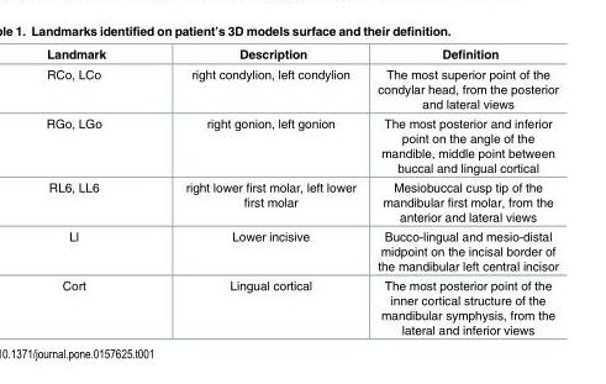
<table><thead><tr><td>Landmark</td><td>Description</td><td>Definition</td></tr></thead><tbody><tr><td>RCo, LCo</td><td>right condylion, left condylion</td><td>The most superior point of the condylar head, from the posterior and lateral views</td></tr><tr><td>RGo, LGo</td><td>right gonion, left gonion</td><td>The most posterior and inferior point on the angle of the mandible, middle point between buccal and lingual cortical</td></tr><tr><td>RL6, LL6</td><td>right lower first molar, left lower first molar</td><td>Mesiobuccal cusp tip of the mandibular first molar, from the anterior and lateral views</td></tr><tr><td>Ll</td><td>Lower incisive</td><td>Bucco-lingual and mesio-distal midpoint on the incisal border of the mandibular left central incisor</td></tr><tr><td>Cort</td><td>Lingual cortical</td><td>The most posterior point of the inner cortical structure of the mandibular symphysis, from the lateral and inferior views</td></tr></tbody></table>